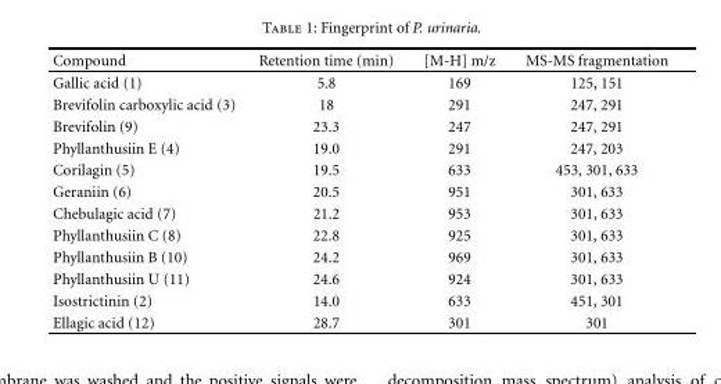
<table><thead><tr><td>Compound</td><td>Retention time (min)</td><td>[M-H] m/z</td><td>MS-MS fragmentation</td></tr></thead><tbody><tr><td>Gallic acid (1)</td><td>5.8</td><td>169</td><td>125, 151</td></tr><tr><td>Brevifolin carboxylic acid (3)</td><td>18</td><td>291</td><td>247, 291</td></tr><tr><td>Brevifolin (9)</td><td>23.3</td><td>247</td><td>247, 291</td></tr><tr><td>Phyllanthusiin E (4)</td><td>19.0</td><td>291</td><td>247, 203</td></tr><tr><td>Corilagin (5)</td><td>19.5</td><td>633</td><td>453, 301, 633</td></tr><tr><td>Geraniin (6)</td><td>20.5</td><td>951</td><td>301, 633</td></tr><tr><td>Chebulagic acid (7)</td><td>21.2</td><td>953</td><td>301, 633</td></tr><tr><td>Phyllanthusiin C (8)</td><td>22.8</td><td>925</td><td>301, 633</td></tr><tr><td>Phyllanthusiin B (10)</td><td>24.2</td><td>969</td><td>301, 633</td></tr><tr><td>Phyllanthusiin U (11)</td><td>24.6</td><td>924</td><td>301, 633</td></tr><tr><td>Isostrictinin (2)</td><td>14.0</td><td>633</td><td>451, 301</td></tr><tr><td>Ellagic acid (12)</td><td>28.7</td><td>301</td><td>301</td></tr></tbody></table>